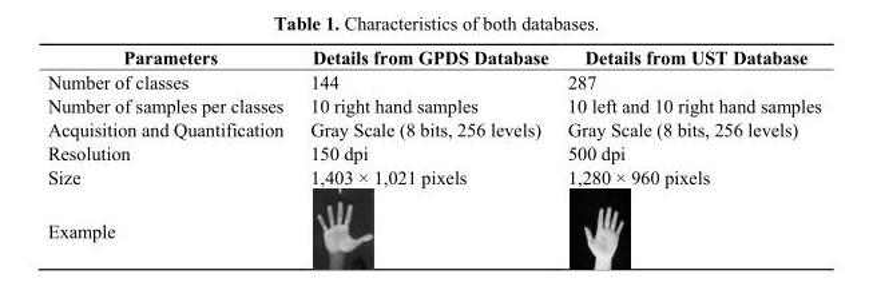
<table><thead><tr><td>Parameters</td><td>Details from GPDS Database</td><td>Details from UST Database</td></tr></thead><tbody><tr><td>Number of classes</td><td>144</td><td>287</td></tr><tr><td>Number of samples per classes</td><td>10 right hand samples</td><td>10 left and 10 right hand samples</td></tr><tr><td>Acquisition and Quantification</td><td>Gray Scale (8 bits, 256 levels)</td><td>Gray Scale (8 bits, 256 levels)</td></tr><tr><td>Resolution</td><td>150 dpi</td><td>500 dpi</td></tr><tr><td>Size</td><td>1,403 × 1,021 pixels</td><td>1,280 × 960 pixels</td></tr><tr><td>Example</td><td></td><td></td></tr></tbody></table>